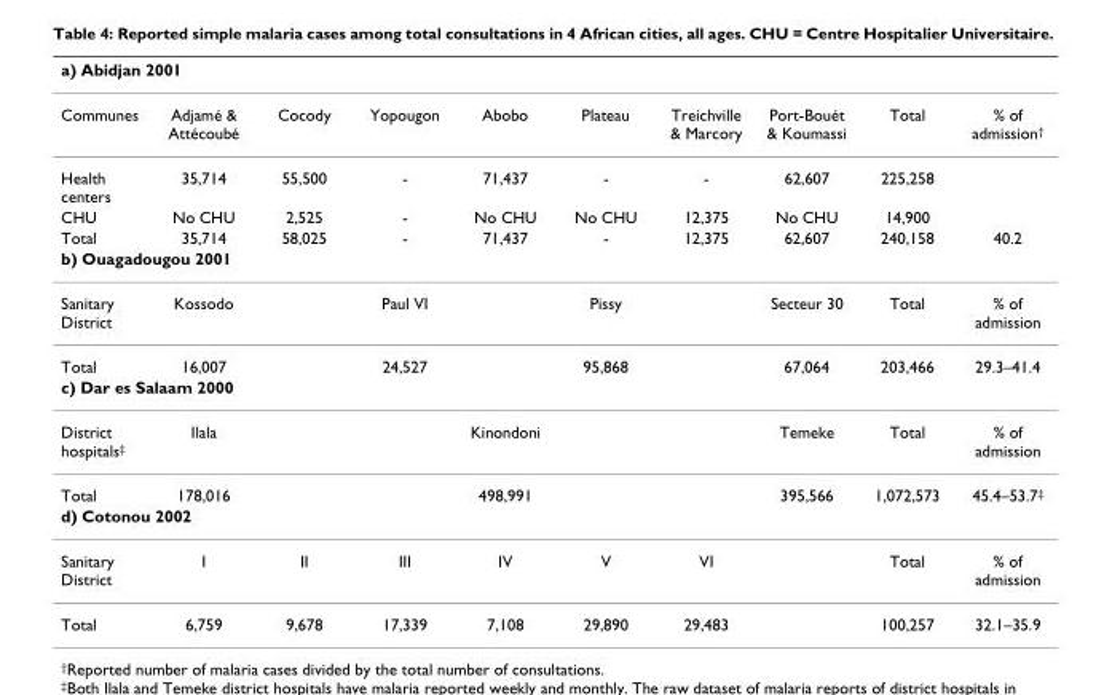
<table><thead><tr><td colspan="10">a) Abidjan 2001</td></tr><tr><td>Communes</td><td>Adjamé &amp; Attécoubé</td><td>Cocody</td><td>Yopougon</td><td>Abobo</td><td>Plateau</td><td>Treichville &amp; Marcory</td><td>Port-Bouét &amp; Koumassi</td><td>Total</td><td>% of admission<sup>†</sup></td></tr></thead><tbody><tr><td>Health centers</td><td>35,714</td><td>55,500</td><td>-</td><td>71,437</td><td>-</td><td>-</td><td>62,607</td><td>225,258</td><td></td></tr><tr><td>CHU</td><td>No CHU</td><td>2,525</td><td>-</td><td>No CHU</td><td>No CHU</td><td>12,375</td><td>No CHU</td><td>14,900</td><td></td></tr><tr><td>Total</td><td>35,714</td><td>58,025</td><td>-</td><td>71,437</td><td>-</td><td>12,375</td><td>62,607</td><td>240,158</td><td>40.2</td></tr><tr><td colspan="10">b) Ouagadougou 2001</td></tr><tr><td>Sanitary District</td><td>Kossodo</td><td></td><td>Paul VI</td><td></td><td>Pissy</td><td></td><td>Secteur 30</td><td>Total</td><td>% of admission</td></tr><tr><td>Total</td><td>16,007</td><td></td><td>24,527</td><td></td><td>95,868</td><td></td><td>67,064</td><td>203,466</td><td>29.3–41.4</td></tr><tr><td colspan="10">c) Dar es Salaam 2000</td></tr><tr><td>District hospitals<sup>‡</sup></td><td>Ilala</td><td></td><td></td><td>Kinondoni</td><td></td><td></td><td>Temeke</td><td>Total</td><td>% of admission</td></tr><tr><td>Total</td><td>178,016</td><td></td><td></td><td>498,991</td><td></td><td></td><td>395,566</td><td>1,072,573</td><td>45.4–53.7<sup>‡</sup></td></tr><tr><td colspan="10">d) Cotonou 2002</td></tr><tr><td>Sanitary District</td><td>I</td><td>II</td><td>III</td><td>IV</td><td>V</td><td>VI</td><td></td><td>Total</td><td>% of admission</td></tr><tr><td>Total</td><td>6,759</td><td>9,678</td><td>17,339</td><td>7,108</td><td>29,890</td><td>29,483</td><td></td><td>100,257</td><td>32.1–35.9</td></tr></tbody></table>